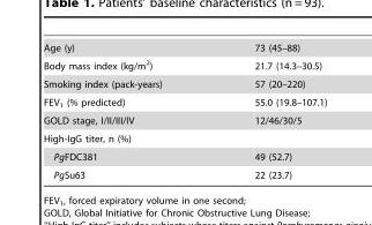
<table><tbody><tr><td>Age (y)</td><td>73 (45–88)</td></tr><tr><td>Body mass index (kg/m<sup>2</sup>)</td><td>21.7 (14.3–30.5)</td></tr><tr><td>Smoking index (pack-years)</td><td>57 (20–220)</td></tr><tr><td>FEV<sub>1</sub> (% predicted)</td><td>55.0 (19.8–107.1)</td></tr><tr><td>GOLD stage, I/II/III/IV</td><td>12/46/30/5</td></tr><tr><td colspan="2">High-IgG titer, n (%)</td></tr><tr><td>PgFDC381</td><td>49 (52.7)</td></tr><tr><td>PgSu63</td><td>22 (23.7)</td></tr></tbody></table>